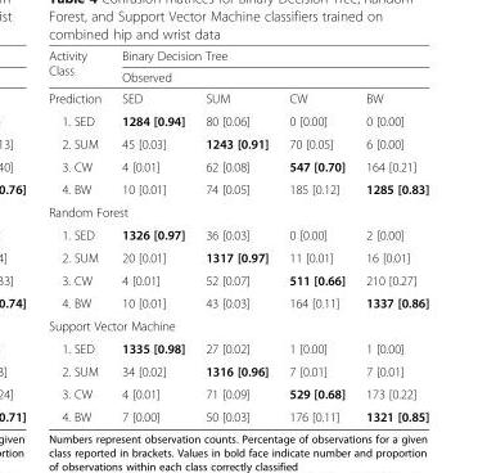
<table><thead><tr><td rowspan="3">Activity Class Prediction</td><td rowspan="2" colspan="4">Binary Decision Tree Observed</td></tr><tr></tr><tr><td>SED</td><td>SUM</td><td>CW</td><td>BW</td></tr></thead><tbody><tr><td>1. SED</td><td>1284 [0.94]</td><td>80 [0.06]</td><td>0 [0.00]</td><td>0 [0.00]</td></tr><tr><td>2. SUM</td><td>45 [0.03]</td><td>1243 [0.91]</td><td>70 [0.05]</td><td>6 [0.00]</td></tr><tr><td>3. CW</td><td>4 [0.01]</td><td>62 [0.08]</td><td>547 [0.70]</td><td>164 [0.21]</td></tr><tr><td>4. BW</td><td>10 [0.01]</td><td>74 [0.05]</td><td>185 [0.12]</td><td>1285 [0.83]</td></tr><tr><td colspan="5">Random Forest</td></tr><tr><td>1. SED</td><td>1326 [0.97]</td><td>36 [0.03]</td><td>0 [0.00]</td><td>2 [0.00]</td></tr><tr><td>2. SUM</td><td>20 [0.01]</td><td>1317 [0.97]</td><td>11 [0.01]</td><td>16 [0.01]</td></tr><tr><td>3. CW</td><td>4 [0.01]</td><td>52 [0.07]</td><td>511 [0.66]</td><td>210 [0.27]</td></tr><tr><td>4. BW</td><td>10 [0.01]</td><td>43 [0.03]</td><td>164 [0.11]</td><td>1337 [0.86]</td></tr><tr><td colspan="5">Support Vector Machine</td></tr><tr><td>1. SED</td><td>1335 [0.98]</td><td>27 [0.02]</td><td>1 [0.00]</td><td>1 [0.00]</td></tr><tr><td>2. SUM</td><td>34 [0.02]</td><td>1316 [0.96]</td><td>7 [0.01]</td><td>7 [0.01]</td></tr><tr><td>3. CW</td><td>4 [0.01]</td><td>71 [0.09]</td><td>529 [0.68]</td><td>173 [0.22]</td></tr><tr><td>4. BW</td><td>7 [0.00]</td><td>50 [0.03]</td><td>176 [0.11]</td><td>1321 [0.85]</td></tr></tbody></table>